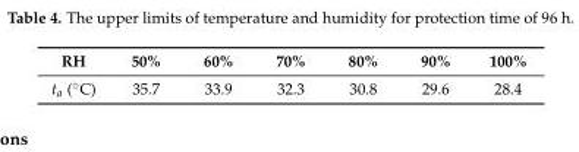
<table><thead><tr><td>RH</td><td>50%</td><td>60%</td><td>70%</td><td>80%</td><td>90%</td><td>100%</td></tr></thead><tbody><tr><td>ta (˝C)</td><td>35.7</td><td>33.9</td><td>32.3</td><td>30.8</td><td>29.6</td><td>28.4</td></tr></tbody></table>